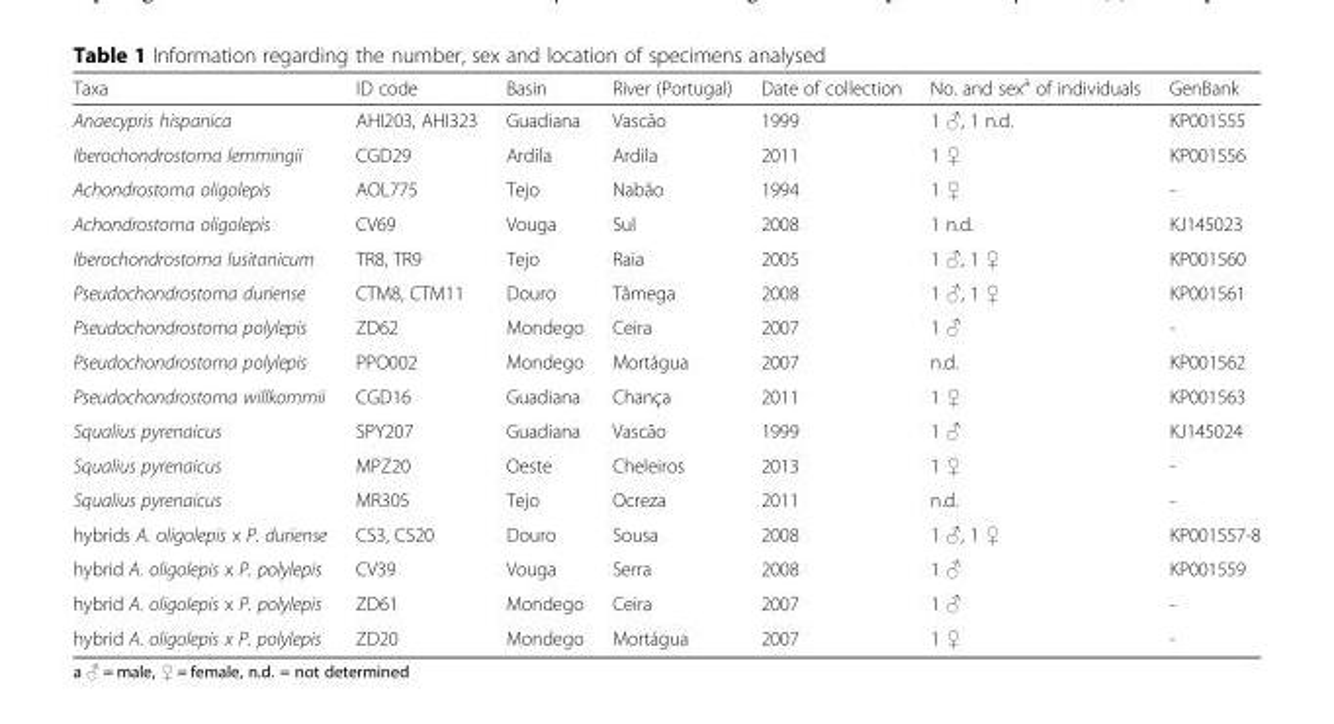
<table><thead><tr><td>Taxa</td><td>ID code</td><td>Basin</td><td>River (Portugal)</td><td>Date of collection</td><td>No. and sex<sup>a</sup> of individuals</td><td>GenBank</td></tr></thead><tbody><tr><td>Anaecypris hispanica</td><td>AHI203, AHI323</td><td>Guadiana</td><td>Vascão</td><td>1999</td><td>1 ♂, 1 n.d.</td><td>KP001555</td></tr><tr><td>Iberochondrostoma lemmingii</td><td>CGD29</td><td>Ardila</td><td>Ardila</td><td>2011</td><td>1 ♀</td><td>KP001556</td></tr><tr><td>Achondrostoma oligolepis</td><td>AOL775</td><td>Tejo</td><td>Nabão</td><td>1994</td><td>1 ♀</td><td>-</td></tr><tr><td>Achondrostoma oligolepis</td><td>CV69</td><td>Vouga</td><td>Sul</td><td>2008</td><td>1 n.d.</td><td>KJ145023</td></tr><tr><td>Iberochondrostoma lusitanicum</td><td>TR8, TR9</td><td>Tejo</td><td>Raia</td><td>2005</td><td>1 ♂, 1 ♀</td><td>KP001560</td></tr><tr><td>Pseudochondrostoma duriense</td><td>CTM8, CTM11</td><td>Douro</td><td>Tâmega</td><td>2008</td><td>1 ♂, 1 ♀</td><td>KP001561</td></tr><tr><td>Pseudochondrostoma polylepis</td><td>ZD62</td><td>Mondego</td><td>Ceira</td><td>2007</td><td>1 ♂</td><td>-</td></tr><tr><td>Pseudochondrostoma polylepis</td><td>PPO002</td><td>Mondego</td><td>Mortágua</td><td>2007</td><td>n.d.</td><td>KP001562</td></tr><tr><td>Pseudochondrostoma willkommii</td><td>CGD16</td><td>Guadiana</td><td>Chança</td><td>2011</td><td>1 ♀</td><td>KP001563</td></tr><tr><td>Squalius pyrenaicus</td><td>SPY207</td><td>Guadiana</td><td>Vascão</td><td>1999</td><td>1 ♂</td><td>KJ145024</td></tr><tr><td>Squalius pyrenaicus</td><td>MPZ20</td><td>Oeste</td><td>Cheleiros</td><td>2013</td><td>1 ♀</td><td>-</td></tr><tr><td>Squalius pyrenaicus</td><td>MR305</td><td>Tejo</td><td>Ocreza</td><td>2011</td><td>n.d.</td><td>-</td></tr><tr><td>hybrids A. oligolepis x P. duriense</td><td>CS3, CS20</td><td>Douro</td><td>Sousa</td><td>2008</td><td>1 ♂, 1 ♀</td><td>KP001557-8</td></tr><tr><td>hybrid A. oligolepis x P. polylepis</td><td>CV39</td><td>Vouga</td><td>Serra</td><td>2008</td><td>1 ♂</td><td>KP001559</td></tr><tr><td>hybrid A. oligolepis x P. polylepis</td><td>ZD61</td><td>Mondego</td><td>Ceira</td><td>2007</td><td>1 ♂</td><td>-</td></tr><tr><td>hybrid A. oligolepis x P. polylepis</td><td>ZD20</td><td>Mondego</td><td>Mortágua</td><td>2007</td><td>1 ♀</td><td>-</td></tr></tbody></table>